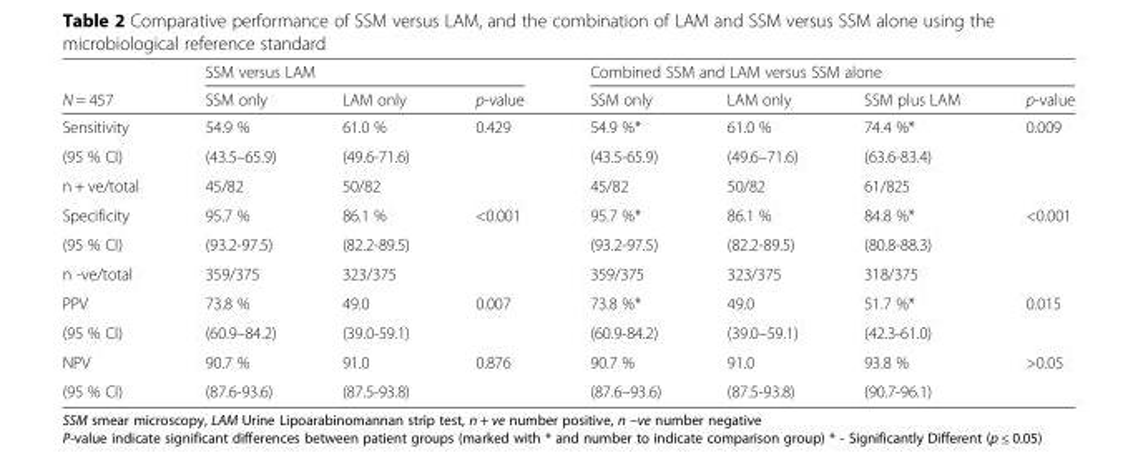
<table><thead><tr><td rowspan="2">N = 457</td><td colspan="3">SSM versus LAM</td><td colspan="4">Combined SSM and LAM versus SSM alone</td></tr><tr><td>SSM only</td><td>LAM only</td><td>p-value</td><td>SSM only</td><td>LAM only</td><td>SSM plus LAM</td><td>p-value</td></tr></thead><tbody><tr><td>Sensitivity</td><td>54.9 %</td><td>61.0 %</td><td>0.429</td><td>54.9 %*</td><td>61.0 %</td><td>74.4 %*</td><td>0.009</td></tr><tr><td>(95 % CI)</td><td>(43.5–65.9)</td><td>(49.6-71.6)</td><td></td><td>(43.5-65.9)</td><td>(49.6–71.6)</td><td>(63.6-83.4)</td><td></td></tr><tr><td>n + ve/total</td><td>45/82</td><td>50/82</td><td></td><td>45/82</td><td>50/82</td><td>61/825</td><td></td></tr><tr><td>Specificity</td><td>95.7 %</td><td>86.1 %</td><td>&lt;0.001</td><td>95.7 %*</td><td>86.1 %</td><td>84.8 %*</td><td>&lt;0.001</td></tr><tr><td>(95 % CI)</td><td>(93.2-97.5)</td><td>(82.2-89.5)</td><td></td><td>(93.2-97.5)</td><td>(82.2-89.5)</td><td>(80.8-88.3)</td><td></td></tr><tr><td>n -ve/total</td><td>359/375</td><td>323/375</td><td></td><td>359/375</td><td>323/375</td><td>318/375</td><td></td></tr><tr><td>PPV</td><td>73.8 %</td><td>49.0</td><td>0.007</td><td>73.8 %*</td><td>49.0</td><td>51.7 %*</td><td>0.015</td></tr><tr><td>(95 % CI)</td><td>(60.9–84.2)</td><td>(39.0-59.1)</td><td></td><td>(60.9-84.2)</td><td>(39.0–59.1)</td><td>(42.3-61.0)</td><td></td></tr><tr><td>NPV</td><td>90.7 %</td><td>91.0</td><td>0.876</td><td>90.7 %</td><td>91.0</td><td>93.8 %</td><td>&gt;0.05</td></tr><tr><td>(95 % CI)</td><td>(87.6-93.6)</td><td>(87.5-93.8)</td><td></td><td>(87.6–93.6)</td><td>(87.5-93.8)</td><td>(90.7-96.1)</td><td></td></tr></tbody></table>